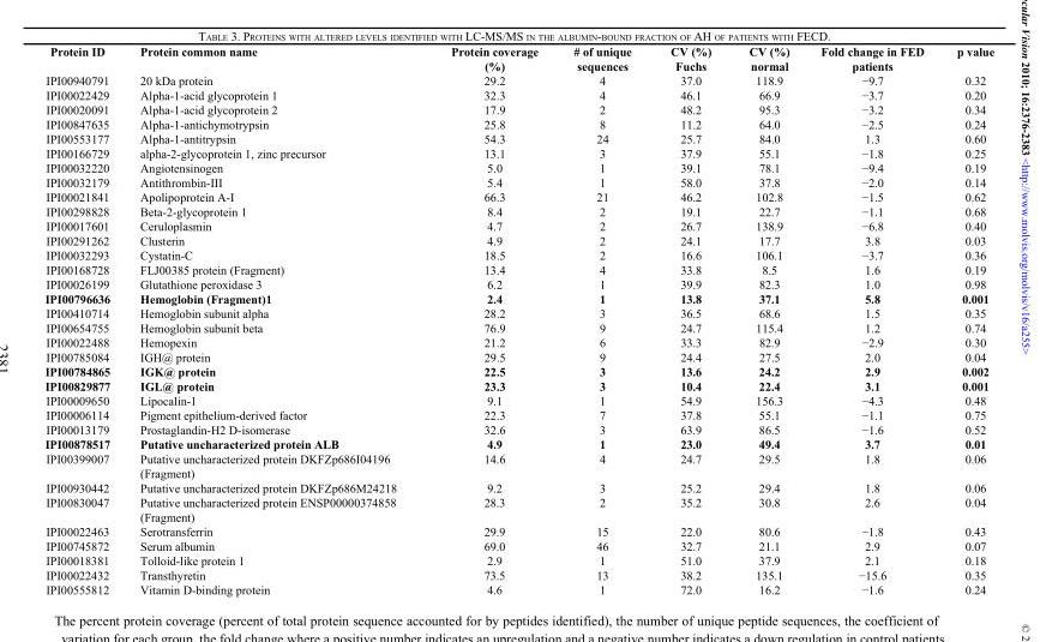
<table><thead><tr><td>Protein ID</td><td>Protein common name</td><td>Protein coverage (%)</td><td># of unique sequences</td><td>CV (%) Fuchs</td><td>CV (%) normal</td><td>Fold change in FED patients</td><td>p value</td></tr></thead><tbody><tr><td>IPI00940791</td><td>20 kDa protein</td><td>29.2</td><td>4</td><td>37.0</td><td>118.9</td><td>−9.7</td><td>0.32</td></tr><tr><td>IPI00022429</td><td>Alpha-1-acid glycoprotein 1</td><td>32.3</td><td>4</td><td>46.1</td><td>66.9</td><td>−3.7</td><td>0.20</td></tr><tr><td>IPI00020091</td><td>Alpha-1-acid glycoprotein 2</td><td>17.9</td><td>2</td><td>48.2</td><td>95.3</td><td>−3.2</td><td>0.34</td></tr><tr><td>IPI00847635</td><td>Alpha-1-antichymotrypsin</td><td>25.8</td><td>8</td><td>11.2</td><td>64.0</td><td>−2.5</td><td>0.24</td></tr><tr><td>IPI00553177</td><td>Alpha-1-antitrypsin</td><td>54.3</td><td>24</td><td>25.7</td><td>84.0</td><td>1.3</td><td>0.60</td></tr><tr><td>IPI00166729</td><td>alpha-2-glycoprotein 1, zinc precursor</td><td>13.1</td><td>3</td><td>37.9</td><td>55.1</td><td>−1.8</td><td>0.25</td></tr><tr><td>IPI00032220</td><td>Angiotensinogen</td><td>5.0</td><td>1</td><td>39.1</td><td>78.1</td><td>−9.4</td><td>0.19</td></tr><tr><td>IPI00032179</td><td>Antithrombin-III</td><td>5.4</td><td>1</td><td>58.0</td><td>37.8</td><td>−2.0</td><td>0.14</td></tr><tr><td>IPI00021841</td><td>Apolipoprotein A-I</td><td>66.3</td><td>21</td><td>46.2</td><td>102.8</td><td>−1.5</td><td>0.62</td></tr><tr><td>IPI00298828</td><td>Beta-2-glycoprotein 1</td><td>8.4</td><td>2</td><td>19.1</td><td>22.7</td><td>−1.1</td><td>0.68</td></tr><tr><td>IPI00017601</td><td>Ceruloplasmin</td><td>4.7</td><td>2</td><td>26.7</td><td>138.9</td><td>−6.8</td><td>0.40</td></tr><tr><td>IPI00291262</td><td>Clusterin</td><td>4.9</td><td>2</td><td>24.1</td><td>17.7</td><td>3.8</td><td>0.03</td></tr><tr><td>IPI00032293</td><td>Cystatin-C</td><td>18.5</td><td>2</td><td>16.6</td><td>106.1</td><td>−3.7</td><td>0.36</td></tr><tr><td>IPI00168728</td><td>FLJ00385 protein (Fragment)</td><td>13.4</td><td>4</td><td>33.8</td><td>8.5</td><td>1.6</td><td>0.19</td></tr><tr><td>IPI00026199</td><td>Glutathione peroxidase 3</td><td>6.2</td><td>1</td><td>39.9</td><td>82.3</td><td>1.0</td><td>0.98</td></tr><tr><td>IPI00796636</td><td>Hemoglobin (Fragment)1</td><td>2.4</td><td>1</td><td>13.8</td><td>37.1</td><td>5.8</td><td>0.001</td></tr><tr><td>IPI00410714</td><td>Hemoglobin subunit alpha</td><td>28.2</td><td>3</td><td>36.5</td><td>68.6</td><td>1.5</td><td>0.35</td></tr><tr><td>IPI00654755</td><td>Hemoglobin subunit beta</td><td>76.9</td><td>9</td><td>24.7</td><td>115.4</td><td>1.2</td><td>0.74</td></tr><tr><td>IPI00022488</td><td>Hemopexin</td><td>21.2</td><td>6</td><td>33.3</td><td>82.9</td><td>−2.9</td><td>0.30</td></tr><tr><td>IPI00785084</td><td>IGH@ protein</td><td>29.5</td><td>9</td><td>24.4</td><td>27.5</td><td>2.0</td><td>0.04</td></tr><tr><td>IPI00784865</td><td>IGK@ protein</td><td>22.5</td><td>3</td><td>13.6</td><td>24.2</td><td>2.9</td><td>0.002</td></tr><tr><td>IPI00829877</td><td>IGL@ protein</td><td>23.3</td><td>3</td><td>10.4</td><td>22.4</td><td>3.1</td><td>0.001</td></tr><tr><td>IPI00009650</td><td>Lipocalin-1</td><td>9.1</td><td>1</td><td>54.9</td><td>156.3</td><td>−4.3</td><td>0.48</td></tr><tr><td>IPI00006114</td><td>Pigment epithelium-derived factor</td><td>22.3</td><td>7</td><td>37.8</td><td>55.1</td><td>−1.1</td><td>0.75</td></tr><tr><td>IPI00013179</td><td>Prostaglandin-H2 D-isomerase</td><td>32.6</td><td>3</td><td>63.9</td><td>86.5</td><td>−1.6</td><td>0.52</td></tr><tr><td>IPI00878517</td><td>Putative uncharacterized protein ALB</td><td>4.9</td><td>1</td><td>23.0</td><td>49.4</td><td>3.7</td><td>0.01</td></tr><tr><td>IPI00399007</td><td>Putative uncharacterized protein DKFZp686I04196 (Fragment)</td><td>14.6</td><td>4</td><td>24.7</td><td>29.5</td><td>1.8</td><td>0.06</td></tr><tr><td>IPI00930442</td><td>Putative uncharacterized protein DKFZp686M24218</td><td>9.2</td><td>3</td><td>25.2</td><td>29.4</td><td>1.8</td><td>0.06</td></tr><tr><td>IPI00830047</td><td>Putative uncharacterized protein ENSP00000374858 (Fragment)</td><td>28.3</td><td>2</td><td>35.2</td><td>30.8</td><td>2.6</td><td>0.04</td></tr><tr><td>IPI00022463</td><td>Serotransferrin</td><td>29.9</td><td>15</td><td>22.0</td><td>80.6</td><td>−1.8</td><td>0.43</td></tr><tr><td>IPI00745872</td><td>Serum albumin</td><td>69.0</td><td>46</td><td>32.7</td><td>21.1</td><td>2.9</td><td>0.07</td></tr><tr><td>IPI00018381</td><td>Tolloid-like protein 1</td><td>2.9</td><td>1</td><td>51.0</td><td>37.9</td><td>2.1</td><td>0.18</td></tr><tr><td>IPI00022432</td><td>Transthyretin</td><td>73.5</td><td>13</td><td>38.2</td><td>135.1</td><td>−15.6</td><td>0.35</td></tr><tr><td>IPI00555812</td><td>Vitamin D-binding protein</td><td>4.6</td><td>1</td><td>72.0</td><td>16.2</td><td>−1.6</td><td>0.24</td></tr></tbody></table>